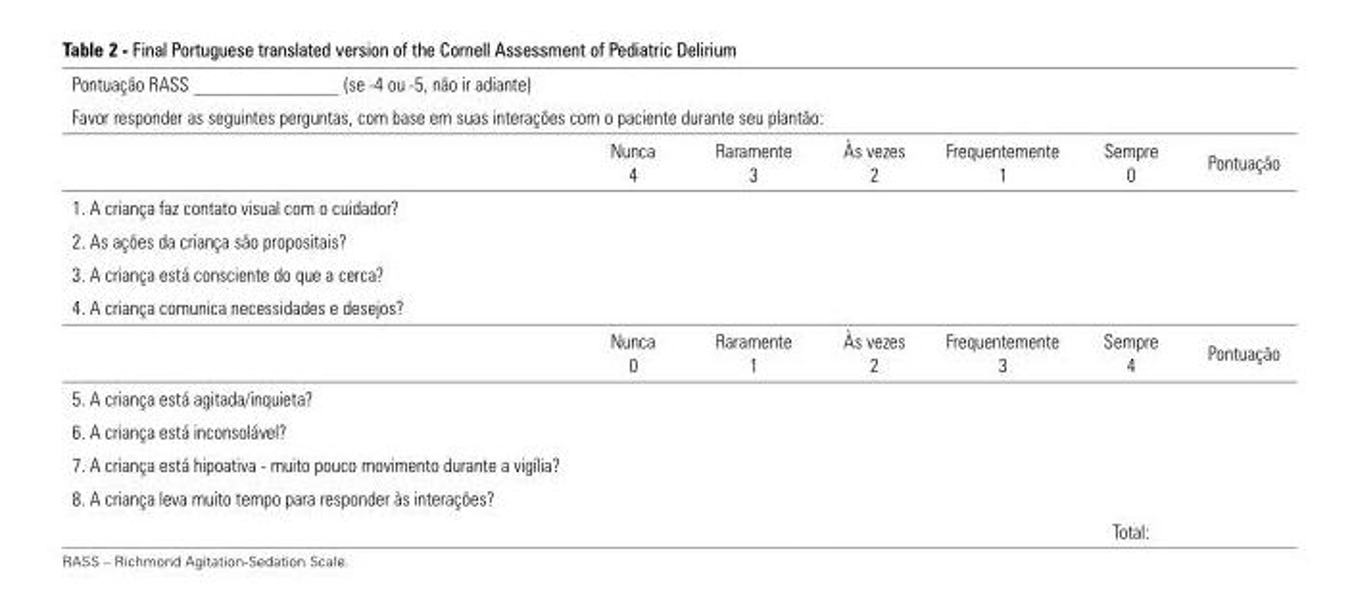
<table><tbody><tr><td colspan="7">Pontuação RASS _______________ (se -4 ou -5, não ir adiante)</td></tr><tr><td colspan="7">Favor responder as seguintes perguntas, com base em suas interações com o paciente durante seu plantão:</td></tr><tr><td></td><td>Nunca 4</td><td>Raramente 3</td><td>Às vezes 2</td><td>Frequentemente 1</td><td>Sempre 0</td><td>Pontuação</td></tr><tr><td colspan="7">1. A criança faz contato visual com o cuidador?</td></tr><tr><td colspan="7">2. As ações da criança são propositais?</td></tr><tr><td colspan="7">3. A criança está consciente do que a cerca?</td></tr><tr><td colspan="7">4. A criança comunica necessidades e desejos?</td></tr><tr><td></td><td>Nunca 0</td><td>Raramente 1</td><td>Às vezes 2</td><td>Frequentemente 3</td><td>Sempre 4</td><td>Pontuação</td></tr><tr><td colspan="7">5. A criança está agitada/inquieta?</td></tr><tr><td colspan="7">6. A criança está inconsolável?</td></tr><tr><td colspan="7">7. A criança está hipoativa - muito pouco movimento durante a vigília?</td></tr><tr><td colspan="7">8. A criança leva muito tempo para responder às interações?</td></tr><tr><td></td><td></td><td></td><td></td><td></td><td>Total:</td><td></td></tr></tbody></table>